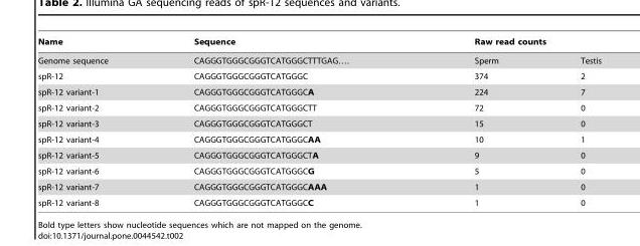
<table><thead><tr><td rowspan="2">Name Genome sequence</td><td rowspan="2">Sequence CAGGGTGGGCGGGTCATGGGCTTTGAG….</td><td colspan="2">Raw read counts</td></tr><tr><td>Sperm</td><td>Testis</td></tr></thead><tbody><tr><td>spR-12</td><td>CAGGGTGGGCGGGTCATGGGC</td><td>374</td><td>2</td></tr><tr><td>spR-12 variant-1</td><td>CAGGGTGGGCGGGTCATGGGCA</td><td>224</td><td>7</td></tr><tr><td>spR-12 variant-2</td><td>CAGGGTGGGCGGGTCATGGGCTT</td><td>72</td><td>0</td></tr><tr><td>spR-12 variant-3</td><td>CAGGGTGGGCGGGTCATGGGCT</td><td>15</td><td>0</td></tr><tr><td>spR-12 variant-4</td><td>CAGGGTGGGCGGGTCATGGGCAA</td><td>10</td><td>1</td></tr><tr><td>spR-12 variant-5</td><td>CAGGGTGGGCGGGTCATGGGCTA</td><td>9</td><td>0</td></tr><tr><td>spR-12 variant-6</td><td>CAGGGTGGGCGGGTCATGGGCG</td><td>5</td><td>0</td></tr><tr><td>spR-12 variant-7</td><td>CAGGGTGGGCGGGTCATGGGCAAA</td><td>1</td><td>0</td></tr><tr><td>spR-12 variant-8</td><td>CAGGGTGGGCGGGTCATGGGCC</td><td>1</td><td>0</td></tr></tbody></table>